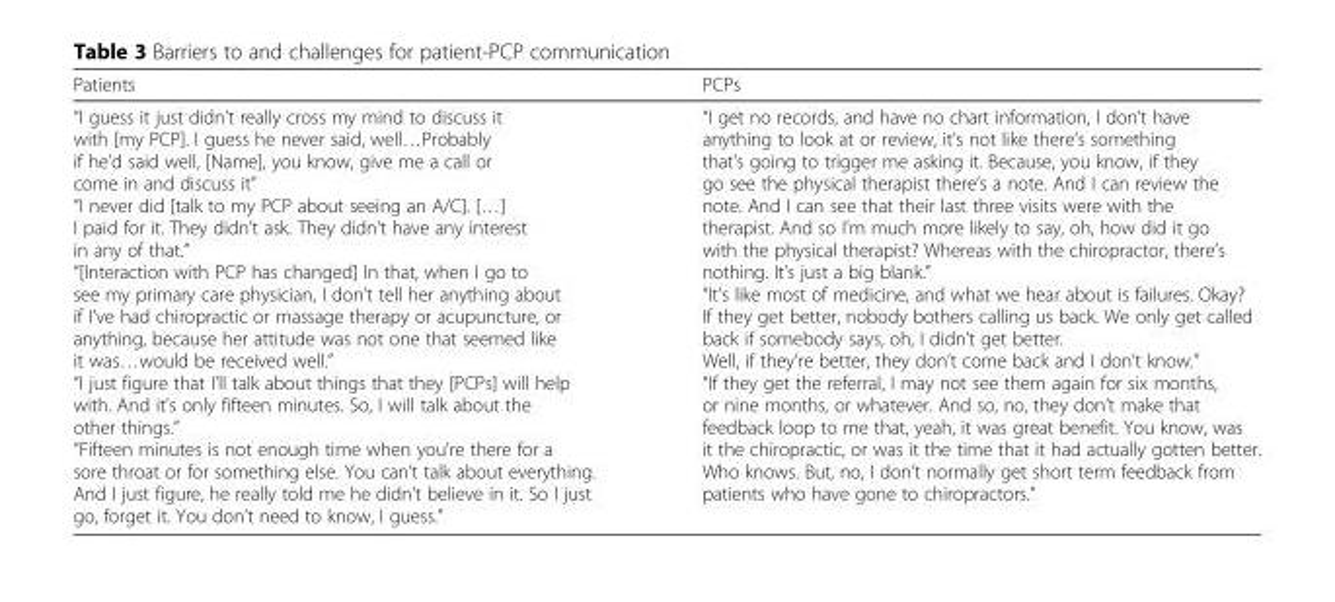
<table><thead><tr><td>Patients</td><td>PCPs</td></tr></thead><tbody><tr><td>“I guess it just didn’t really cross my mind to discuss it with [my PCP]. I guess he never said, well…Probably if he’d said well, [Name], you know, give me a call or come in and discuss it” “I never did [talk to my PCP about seeing an A/C]. […] I paid for it. They didn’t ask. They didn’t have any interest in any of that.” “[Interaction with PCP has changed] In that, when I go to see my primary care physician, I don’t tell her anything about if I’ve had chiropractic or massage therapy or acupuncture, or anything, because her attitude was not one that seemed like it was…would be received well.” “I just figure that I’ll talk about things that they [PCPs] will help with. And it’s only fifteen minutes. So, I will talk about the other things.” “Fifteen minutes is not enough time when you’re there for a sore throat or for something else. You can’t talk about everything. And I just figure, he really told me he didn’t believe in it. So I just go, forget it. You don’t need to know, I guess.”</td><td>“I get no records, and have no chart information, I don’t have anything to look at or review, it’s not like there’s something that’s going to trigger me asking it. Because, you know, if they go see the physical therapist there’s a note. And I can review the note. And I can see that their last three visits were with the therapist. And so I’m much more likely to say, oh, how did it go with the physical therapist? Whereas with the chiropractor, there’s nothing. It’s just a big blank.” “It’s like most of medicine, and what we hear about is failures. Okay? If they get better, nobody bothers calling us back. We only get called back if somebody says, oh, I didn’t get better. Well, if they’re better, they don’t come back and I don’t know.” “If they get the referral, I may not see them again for six months, or nine months, or whatever. And so, no, they don’t make that feedback loop to me that, yeah, it was great benefit. You know, was it the chiropractic, or was it the time that it had actually gotten better. Who knows. But, no, I don’t normally get short term feedback from patients who have gone to chiropractors.”</td></tr></tbody></table>